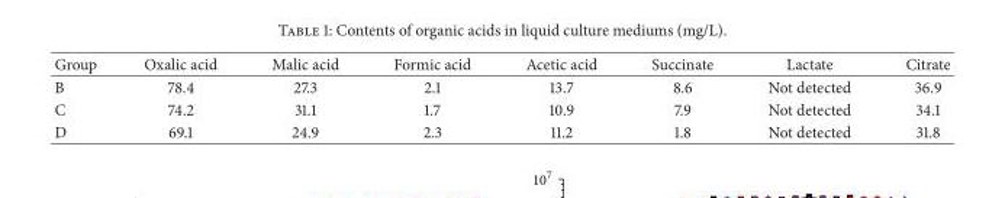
<table><thead><tr><td>Group</td><td>Oxalic acid</td><td>Malic acid</td><td>Formic acid</td><td>Acetic acid</td><td>Succinate</td><td>Lactate</td><td>Citrate</td></tr></thead><tbody><tr><td>B</td><td>78.4</td><td>27.3</td><td>2.1</td><td>13.7</td><td>8.6</td><td>Not detected</td><td>36.9</td></tr><tr><td>C</td><td>74.2</td><td>31.1</td><td>1.7</td><td>10.9</td><td>7.9</td><td>Not detected</td><td>34.1</td></tr><tr><td>D</td><td>69.1</td><td>24.9</td><td>2.3</td><td>11.2</td><td>1.8</td><td>Not detected</td><td>31.8</td></tr></tbody></table>